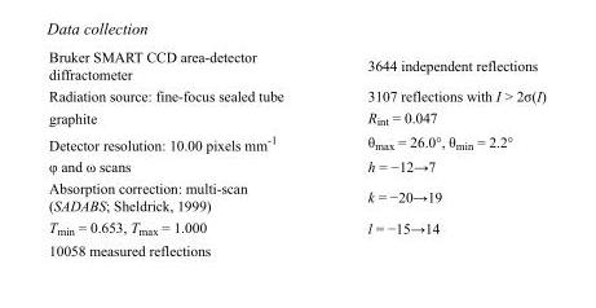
<table><tbody><tr><td>Bruker SMART CCD area-detector diffractometer</td><td>3644 independent reflections</td></tr><tr><td>Radiation source: fine-focus sealed tube</td><td>3107 reflections with I &gt; 2σ(I)</td></tr><tr><td>graphite</td><td>R<sub>int</sub> = 0.047</td></tr><tr><td>Detector resolution: 10.00 pixels mm<sup>-1</sup></td><td>θ<sub>max</sub> = 26.0°, θ<sub>min</sub> = 2.2°</td></tr><tr><td>φ and ω scans</td><td>h = −12→7</td></tr><tr><td>Absorption correction: multi-scan (SADABS; Sheldrick, 1999)</td><td>k = −20→19</td></tr><tr><td>T<sub>min</sub> = 0.653, T<sub>max</sub> = 1.000</td><td>l = −15→14</td></tr><tr><td>10058 measured reflections</td><td></td></tr></tbody></table>